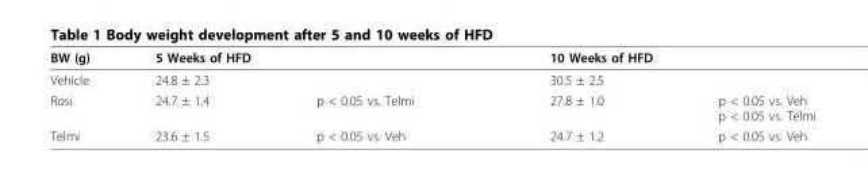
<table><thead><tr><td>BW (g)</td><td>5 Weeks of HFD</td><td></td><td>10 Weeks of HFD</td><td></td></tr></thead><tbody><tr><td>Vehicle</td><td>24.8 ± 2.3</td><td></td><td>30.5 ± 2.5</td><td></td></tr><tr><td>Rosi</td><td>24.7 ± 1.4</td><td>p &lt; 0.05 vs. Telmi</td><td>27.8 ± 1.0</td><td>p &lt; 0.05 vs. Veh p &lt; 0.05 vs. Telmi</td></tr><tr><td>Telmi</td><td>23.6 ± 1.5</td><td>p &lt; 0.05 vs. Veh</td><td>24.7 ± 1.2</td><td>p &lt; 0.05 vs. Veh</td></tr></tbody></table>